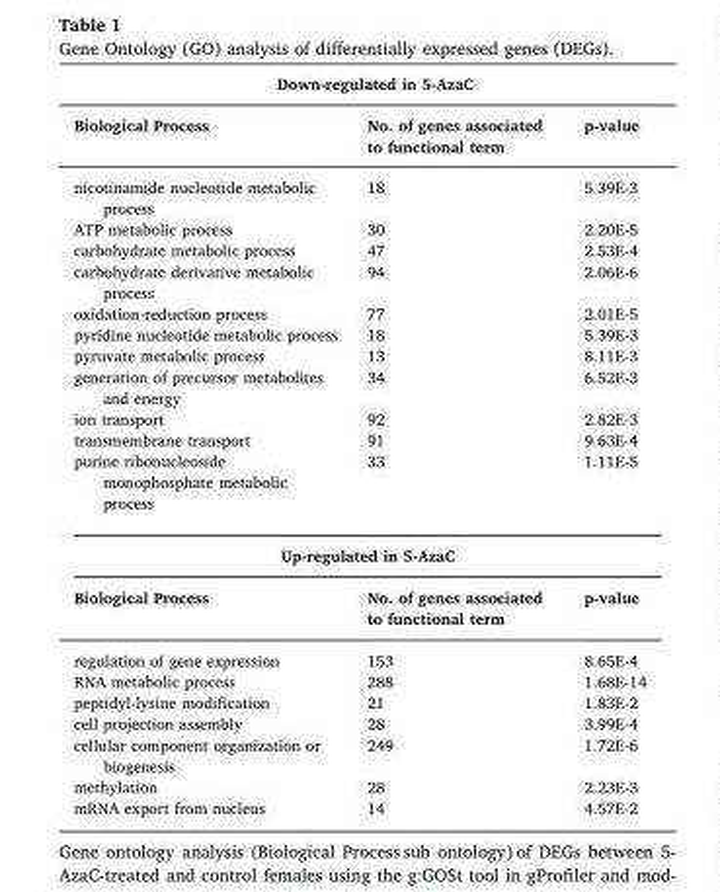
<table><thead><tr><td colspan="3">Down-regulated in 5-AzaC</td></tr><tr><td>Biological Process</td><td>No. of genes associated to functional term</td><td>p-value</td></tr></thead><tbody><tr><td>nicotinamide nucleotide metabolic process</td><td>18</td><td>5.39E-3</td></tr><tr><td>ATP metabolic process</td><td>30</td><td>2.20E-5</td></tr><tr><td>carbohydrate metabolic process</td><td>47</td><td>2.53E-4</td></tr><tr><td>carbohydrate derivative metabolic process</td><td>94</td><td>2.06E-6</td></tr><tr><td>oxidation-reduction process</td><td>77</td><td>2.01E-5</td></tr><tr><td>pyridine nucleotide metabolic process</td><td>18</td><td>5.39E-3</td></tr><tr><td>pyruvate metabolic process</td><td>13</td><td>8.11E-3</td></tr><tr><td>generation of precursor metabolites and energy</td><td>34</td><td>6.52E-3</td></tr><tr><td>ion transport</td><td>92</td><td>2.82E-3</td></tr><tr><td>transmembrane transport</td><td>91</td><td>9.63E-4</td></tr><tr><td>purine ribonucleoside monophosphate metabolic process</td><td>33</td><td>1.11E-5</td></tr><tr><td colspan="3">Up-regulated in 5-AzaC</td></tr><tr><td>Biological Process</td><td>No. of genes associated to functional term</td><td>p-value</td></tr><tr><td>regulation of gene expression</td><td>153</td><td>8.65E-4</td></tr><tr><td>RNA metabolic process</td><td>288</td><td>1.68E-14</td></tr><tr><td>peptidyl-lysine modification</td><td>21</td><td>1.83E-2</td></tr><tr><td>cell projection assembly</td><td>28</td><td>3.99E-4</td></tr><tr><td>cellular component organization or biogenesis</td><td>249</td><td>1.72E-6</td></tr><tr><td>methylation</td><td>28</td><td>2.23E-3</td></tr><tr><td>mRNA export from nucleus</td><td>14</td><td>4.57E-2</td></tr></tbody></table>